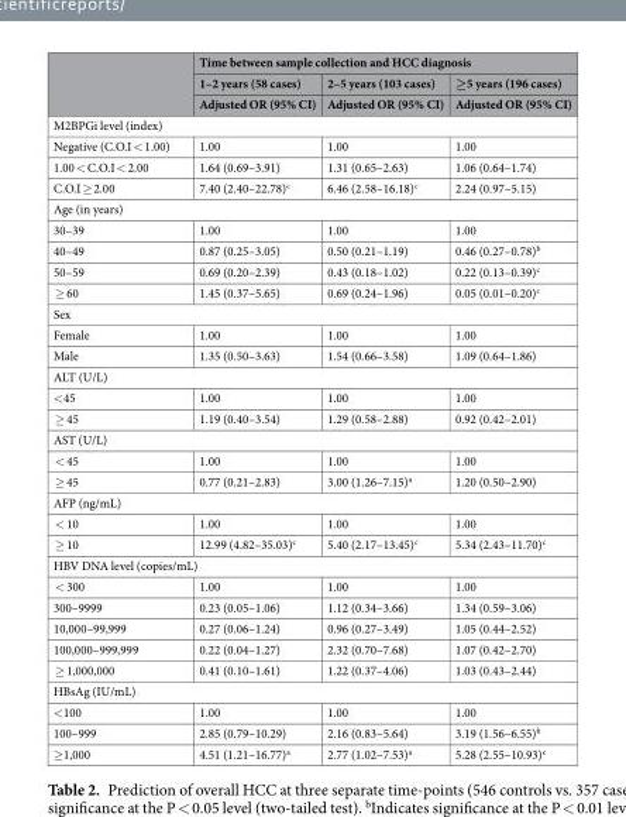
<table><thead><tr><td rowspan="3"></td><td colspan="3">Time between sample collection and HCC diagnosis</td></tr><tr><td rowspan="2">1–2 years (58 cases) Adjusted OR (95% CI)</td><td rowspan="2">2–5 years (103 cases) Adjusted OR (95% CI)</td><td rowspan="2">≥5 years (196 cases) Adjusted OR (95% CI)</td></tr><tr></tr></thead><tbody><tr><td colspan="4">M2BPGi level (index)</td></tr><tr><td>Negative (C.O.I &lt; 1.00)</td><td>1.00</td><td>1.00</td><td>1.00</td></tr><tr><td>1.00 &lt; C.O.I &lt; 2.00</td><td>1.64 (0.69–3.91)</td><td>1.31 (0.65–2.63)</td><td>1.06 (0.64–1.74)</td></tr><tr><td>C.O.I ≥ 2.00</td><td>7.40 (2.40–22.78)<sup>c</sup></td><td>6.46 (2.58–16.18)<sup>c</sup></td><td>2.24 (0.97–5.15)</td></tr><tr><td colspan="4">Age (in years)</td></tr><tr><td>30–39</td><td>1.00</td><td>1.00</td><td>1.00</td></tr><tr><td>40–49</td><td>0.87 (0.25–3.05)</td><td>0.50 (0.21–1.19)</td><td>0.46 (0.27–0.78)<sup>b</sup></td></tr><tr><td>50–59</td><td>0.69 (0.20–2.39)</td><td>0.43 (0.18–1.02)</td><td>0.22 (0.13–0.39)<sup>c</sup></td></tr><tr><td>≥ 60</td><td>1.45 (0.37–5.65)</td><td>0.69 (0.24–1.96)</td><td>0.05 (0.01–0.20)<sup>c</sup></td></tr><tr><td colspan="4">Sex</td></tr><tr><td>Female</td><td>1.00</td><td>1.00</td><td>1.00</td></tr><tr><td>Male</td><td>1.35 (0.50–3.63)</td><td>1.54 (0.66–3.58)</td><td>1.09 (0.64–1.86)</td></tr><tr><td colspan="4">ALT (U/L)</td></tr><tr><td>&lt;45</td><td>1.00</td><td>1.00</td><td>1.00</td></tr><tr><td>≥ 45</td><td>1.19 (0.40–3.54)</td><td>1.29 (0.58–2.88)</td><td>0.92 (0.42–2.01)</td></tr><tr><td colspan="4">AST (U/L)</td></tr><tr><td>&lt; 45</td><td>1.00</td><td>1.00</td><td>1.00</td></tr><tr><td>≥ 45</td><td>0.77 (0.21–2.83)</td><td>3.00 (1.26–7.15)<sup>a</sup></td><td>1.20 (0.50–2.90)</td></tr><tr><td colspan="4">AFP (ng/mL)</td></tr><tr><td>&lt; 10</td><td>1.00</td><td>1.00</td><td>1.00</td></tr><tr><td>≥ 10</td><td>12.99 (4.82–35.03)<sup>c</sup></td><td>5.40 (2.17–13.45)<sup>c</sup></td><td>5.34 (2.43–11.70)<sup>c</sup></td></tr><tr><td colspan="4">HBV DNA level (copies/mL)</td></tr><tr><td>&lt; 300</td><td>1.00</td><td>1.00</td><td>1.00</td></tr><tr><td>300–9999</td><td>0.23 (0.05–1.06)</td><td>1.12 (0.34–3.66)</td><td>1.34 (0.59–3.06)</td></tr><tr><td>10,000–99,999</td><td>0.27 (0.06–1.24)</td><td>0.96 (0.27–3.49)</td><td>1.05 (0.44–2.52)</td></tr><tr><td>100,000–999,999</td><td>0.22 (0.04–1.27)</td><td>2.32 (0.70–7.68)</td><td>1.07 (0.42–2.70)</td></tr><tr><td>≥ 1,000,000</td><td>0.41 (0.10–1.61)</td><td>1.22 (0.37–4.06)</td><td>1.03 (0.43–2.44)</td></tr><tr><td colspan="4">HBsAg (IU/mL)</td></tr><tr><td>&lt;100</td><td>1.00</td><td>1.00</td><td>1.00</td></tr><tr><td>100–999</td><td>2.85 (0.79–10.29)</td><td>2.16 (0.83–5.64)</td><td>3.19 (1.56–6.55)<sup>b</sup></td></tr><tr><td>≥1,000</td><td>4.51 (1.21–16.77)<sup>a</sup></td><td>2.77 (1.02–7.53)<sup>a</sup></td><td>5.28 (2.55–10.93)<sup>c</sup></td></tr></tbody></table>